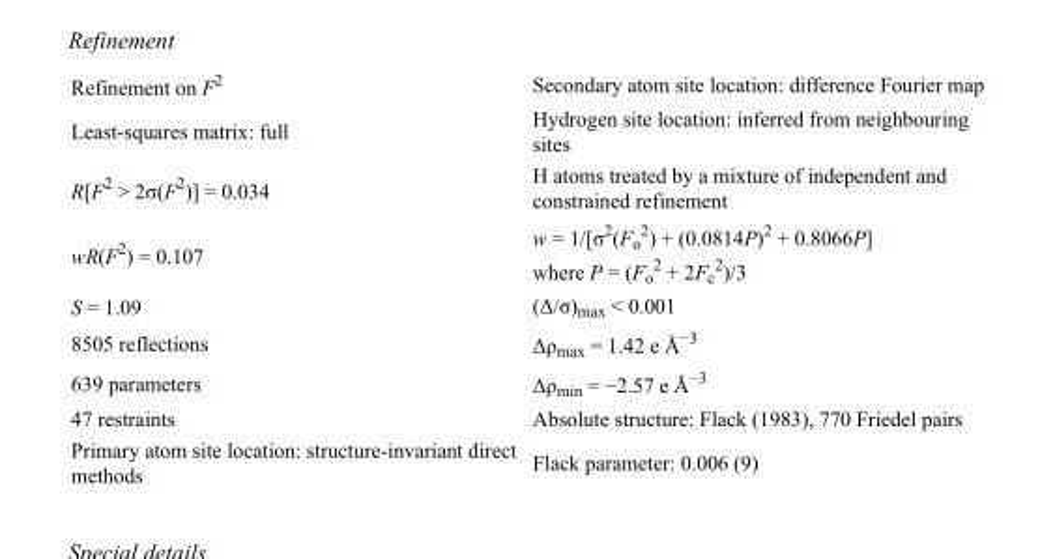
<table><tbody><tr><td>Refinement on F<sup>2</sup></td><td>Secondary atom site location: difference Fourier map</td></tr><tr><td>Least-squares matrix: full</td><td>Hydrogen site location: inferred from neighbouring sites</td></tr><tr><td>R[F<sup>2</sup> &gt; 2σ(F<sup>2</sup>)] = 0.034</td><td>H atoms treated by a mixture of independent and constrained refinement</td></tr><tr><td>wR(F<sup>2</sup>) = 0.107</td><td>w = 1/[σ<sup>2</sup>(F<sub>o</sub> <sup>2</sup>) + (0.0814P)<sup>2</sup> + 0.8066P] where P = (F<sub>o</sub> <sup>2</sup> + 2F<sub>c</sub> <sup>2</sup>)/3</td></tr><tr><td>S = 1.09</td><td>(Δ/σ)<sub>max</sub> &lt; 0.001</td></tr><tr><td>8505 reflections</td><td>Δρ<sub>max</sub> = 1.42 e Å<sup>−3</sup></td></tr><tr><td>639 parameters</td><td>Δρ<sub>min</sub> = −2.57 e Å<sup>−3</sup></td></tr><tr><td>47 restraints</td><td>Absolute structure: Flack (1983), 770 Friedel pairs</td></tr><tr><td>Primary atom site location: structure-invariant direct methods</td><td>Flack parameter: 0.006 (9)</td></tr></tbody></table>